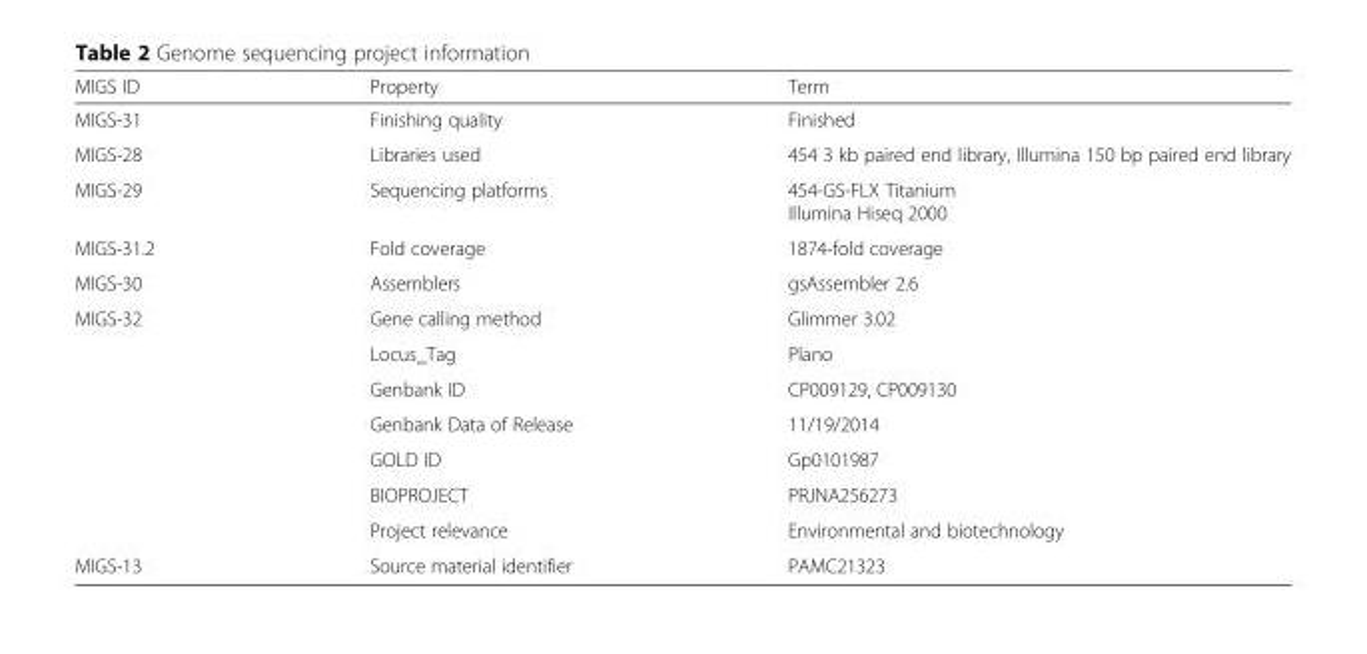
<table><thead><tr><td>MIGS ID</td><td>Property</td><td>Term</td></tr></thead><tbody><tr><td>MIGS-31</td><td>Finishing quality</td><td>Finished</td></tr><tr><td>MIGS-28</td><td>Libraries used</td><td>454 3 kb paired end library, Illumina 150 bp paired end library</td></tr><tr><td>MIGS-29</td><td>Sequencing platforms</td><td>454-GS-FLX Titanium Illumina Hiseq 2000</td></tr><tr><td>MIGS-31.2</td><td>Fold coverage</td><td>1874-fold coverage</td></tr><tr><td>MIGS-30</td><td>Assemblers</td><td>gsAssembler 2.6</td></tr><tr><td rowspan="7">MIGS-32</td><td>Gene calling method</td><td>Glimmer 3.02</td></tr><tr><td>Locus_Tag</td><td>Plano</td></tr><tr><td>Genbank ID</td><td>CP009129, CP009130</td></tr><tr><td>Genbank Data of Release</td><td>11/19/2014</td></tr><tr><td>GOLD ID</td><td>Gp0101987</td></tr><tr><td>BIOPROJECT</td><td>PRJNA256273</td></tr><tr><td>Project relevance</td><td>Environmental and biotechnology</td></tr><tr><td>MIGS-13</td><td>Source material identifier</td><td>PAMC21323</td></tr></tbody></table>